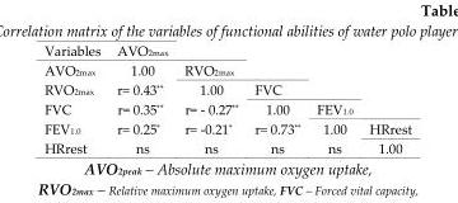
<table><tbody><tr><td>Variables</td><td>AVO<sub>2max</sub></td><td></td><td></td><td></td><td></td></tr><tr><td>AVO<sub>2max</sub></td><td>1.00</td><td>RVO<sub>2max</sub></td><td></td><td></td><td></td></tr><tr><td>RVO<sub>2max</sub></td><td>r= 0.43**</td><td>1.00</td><td>FVC</td><td></td><td></td></tr><tr><td>FVC</td><td>r= 0.35**</td><td>r= - 0.27**</td><td>1.00</td><td>FEV<sub>1.0</sub></td><td></td></tr><tr><td>FEV<sub>1.0</sub></td><td>r= 0.25*</td><td>r= -0.21*</td><td>r= 0.73**</td><td>1.00</td><td>HRrest</td></tr><tr><td>HRrest</td><td>ns</td><td>ns</td><td>ns</td><td>ns</td><td>1.00</td></tr></tbody></table>